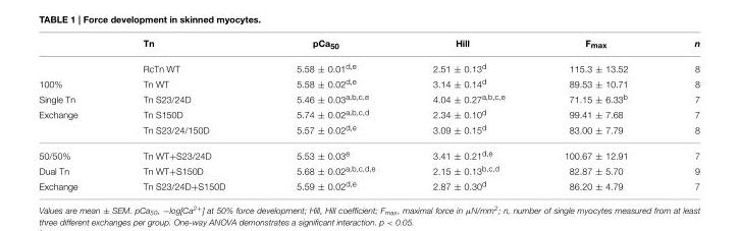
<table><thead><tr><td></td><td>Tn</td><td>pCa<sub>50</sub></td><td>Hill</td><td>F<sub>max</sub></td><td>n</td></tr></thead><tbody><tr><td></td><td>RcTn WT</td><td>5.58 ± 0.01<sup>d,e</sup></td><td>2.51 ± 0.13<sup>d</sup></td><td>115.3 ± 13.52</td><td>8</td></tr><tr><td>100%</td><td>Tn WT</td><td>5.58 ± 0.02<sup>d,e</sup></td><td>3.14 ± 0.14<sup>d</sup></td><td>89.53 ± 10.71</td><td>8</td></tr><tr><td>Single Tn</td><td>Tn S23/24D</td><td>5.46 ± 0.03<sup>a,b,c,e</sup></td><td>4.04 ± 0.27<sup>a,b,c,e</sup></td><td>71.15 ± 6.33<sup>b</sup></td><td>7</td></tr><tr><td rowspan="2">Exchange</td><td>Tn S150D</td><td>5.74 ± 0.02<sup>a,b,c,d</sup></td><td>2.34 ± 0.10<sup>d</sup></td><td>99.41 ± 7.68</td><td>7</td></tr><tr><td>Tn S23/24/150D</td><td>5.57 ± 0.02<sup>d,e</sup></td><td>3.09 ± 0.15<sup>d</sup></td><td>83.00 ± 7.79</td><td>8</td></tr><tr><td>50/50%</td><td>Tn WT+S23/24D</td><td>5.53 ± 0.03<sup>e</sup></td><td>3.41 ± 0.21<sup>d,e</sup></td><td>100.67 ± 12.91</td><td>7</td></tr><tr><td>Dual Tn</td><td>Tn WT+S150D</td><td>5.68 ± 0.02<sup>a,b,c,d,e</sup></td><td>2.15 ± 0.13<sup>b,c,d</sup></td><td>82.87 ± 5.70</td><td>9</td></tr><tr><td>Exchange</td><td>Tn S23/24D+S150D</td><td>5.59 ± 0.02<sup>d,e</sup></td><td>2.87 ± 0.30<sup>d</sup></td><td>86.20 ± 4.79</td><td>7</td></tr></tbody></table>